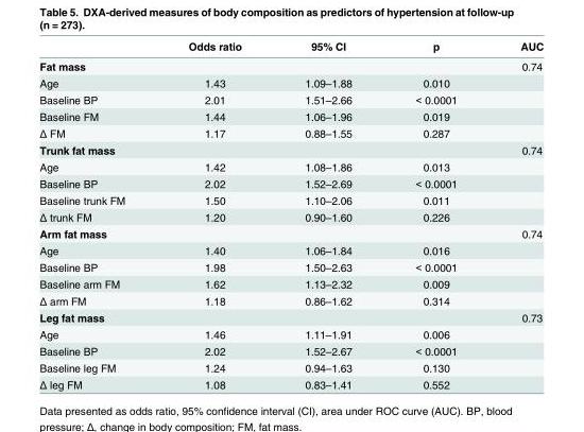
<table><thead><tr><td></td><td>Odds ratio</td><td>95% CI</td><td>p</td><td>AUC</td></tr></thead><tbody><tr><td>Fat mass</td><td></td><td></td><td></td><td>0.74</td></tr><tr><td>Age</td><td>1.43</td><td>1.09–1.88</td><td>0.010</td><td></td></tr><tr><td>Baseline BP</td><td>2.01</td><td>1.51–2.66</td><td>&lt; 0.0001</td><td></td></tr><tr><td>Baseline FM</td><td>1.44</td><td>1.06–1.96</td><td>0.019</td><td></td></tr><tr><td>Δ FM</td><td>1.17</td><td>0.88–1.55</td><td>0.287</td><td></td></tr><tr><td>Trunk fat mass</td><td></td><td></td><td></td><td>0.74</td></tr><tr><td>Age</td><td>1.42</td><td>1.08–1.86</td><td>0.013</td><td></td></tr><tr><td>Baseline BP</td><td>2.02</td><td>1.52–2.69</td><td>&lt; 0.0001</td><td></td></tr><tr><td>Baseline trunk FM</td><td>1.50</td><td>1.10–2.06</td><td>0.011</td><td></td></tr><tr><td>Δ trunk FM</td><td>1.20</td><td>0.90–1.60</td><td>0.226</td><td></td></tr><tr><td>Arm fat mass</td><td></td><td></td><td></td><td>0.74</td></tr><tr><td>Age</td><td>1.40</td><td>1.06–1.84</td><td>0.016</td><td></td></tr><tr><td>Baseline BP</td><td>1.98</td><td>1.50–2.63</td><td>&lt; 0.0001</td><td></td></tr><tr><td>Baseline arm FM</td><td>1.62</td><td>1.13–2.32</td><td>0.009</td><td></td></tr><tr><td>Δ arm FM</td><td>1.18</td><td>0.86–1.62</td><td>0.314</td><td></td></tr><tr><td>Leg fat mass</td><td></td><td></td><td></td><td>0.73</td></tr><tr><td>Age</td><td>1.46</td><td>1.11–1.91</td><td>0.006</td><td></td></tr><tr><td>Baseline BP</td><td>2.02</td><td>1.52–2.67</td><td>&lt; 0.0001</td><td></td></tr><tr><td>Baseline leg FM</td><td>1.24</td><td>0.94–1.63</td><td>0.130</td><td></td></tr><tr><td>Δ leg FM</td><td>1.08</td><td>0.83–1.41</td><td>0.552</td><td></td></tr></tbody></table>